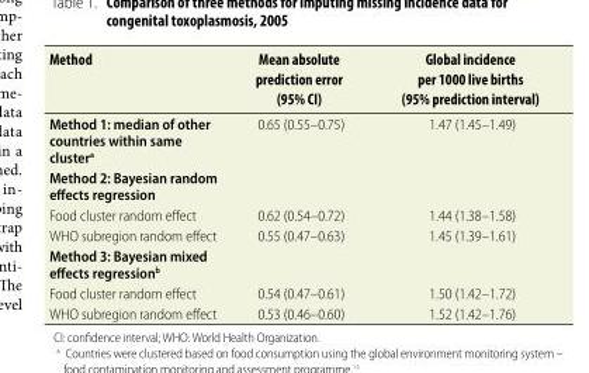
<table><thead><tr><td>Method</td><td>Mean absolute prediction error (95% CI)</td><td>Global incidence per 1000 live births (95% prediction interval)</td></tr></thead><tbody><tr><td>Method 1: median of other countries within same cluster<sup>a</sup></td><td>0.65 (0.55–0.75)</td><td>1.47 (1.45–1.49)</td></tr><tr><td colspan="3">Method 2: Bayesian random effects regression</td></tr><tr><td>Food cluster random effect</td><td>0.62 (0.54–0.72)</td><td>1.44 (1.38–1.58)</td></tr><tr><td>WHO subregion random effect</td><td>0.55 (0.47–0.63)</td><td>1.45 (1.39–1.61)</td></tr><tr><td colspan="3">Method 3: Bayesian mixed effects regression<sup>b</sup></td></tr><tr><td>Food cluster random effect</td><td>0.54 (0.47–0.61)</td><td>1.50 (1.42–1.72)</td></tr><tr><td>WHO subregion random effect</td><td>0.53 (0.46–0.60)</td><td>1.52 (1.42–1.76)</td></tr></tbody></table>